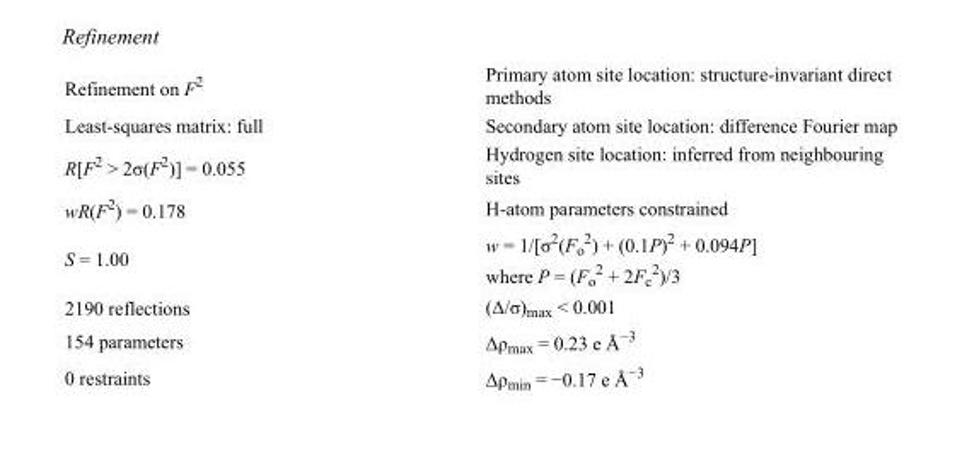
<table><tbody><tr><td>Refinement on F<sup>2</sup></td><td>Primary atom site location: structure-invariant direct methods</td></tr><tr><td>Least-squares matrix: full</td><td>Secondary atom site location: difference Fourier map</td></tr><tr><td>R[F<sup>2</sup> &gt; 2σ(F<sup>2</sup>)] = 0.055</td><td>Hydrogen site location: inferred from neighbouring sites</td></tr><tr><td>wR(F<sup>2</sup>) = 0.178</td><td>H-atom parameters constrained</td></tr><tr><td>S = 1.00</td><td>w = 1/[σ<sup>2</sup>(F<sub>o</sub> <sup>2</sup>) + (0.1P)<sup>2</sup> + 0.094P] where P = (F<sub>o</sub> <sup>2</sup> + 2F<sub>c</sub> <sup>2</sup>)/3</td></tr><tr><td>2190 reflections</td><td>(Δ/σ)<sub>max</sub> &lt; 0.001</td></tr><tr><td>154 parameters</td><td>Δρ<sub>max</sub> = 0.23 e Å<sup>−3</sup></td></tr><tr><td>0 restraints</td><td>Δρ<sub>min</sub> = −0.17 e Å<sup>−3</sup></td></tr></tbody></table>